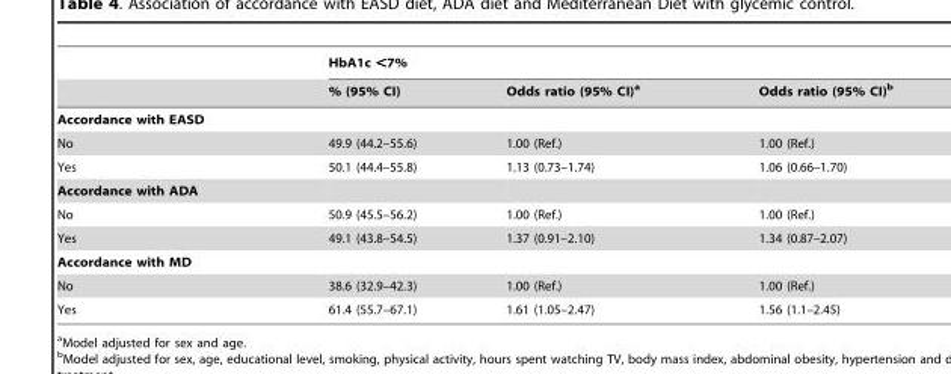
<table><thead><tr><td rowspan="2"></td><td colspan="3">HbA1c &lt;7%</td></tr><tr><td>% (95% CI)</td><td>Odds ratio (95% CI)<sup>a</sup></td><td>Odds ratio (95% CI)<sup>b</sup></td></tr></thead><tbody><tr><td colspan="4">Accordance with EASD</td></tr><tr><td>No</td><td>49.9 (44.2–55.6)</td><td>1.00 (Ref.)</td><td>1.00 (Ref.)</td></tr><tr><td>Yes</td><td>50.1 (44.4–55.8)</td><td>1.13 (0.73–1.74)</td><td>1.06 (0.66–1.70)</td></tr><tr><td colspan="4">Accordance with ADA</td></tr><tr><td>No</td><td>50.9 (45.5–56.2)</td><td>1.00 (Ref.)</td><td>1.00 (Ref.)</td></tr><tr><td>Yes</td><td>49.1 (43.8–54.5)</td><td>1.37 (0.91–2.10)</td><td>1.34 (0.87–2.07)</td></tr><tr><td colspan="4">Accordance with MD</td></tr><tr><td>No</td><td>38.6 (32.9–42.3)</td><td>1.00 (Ref.)</td><td>1.00 (Ref.)</td></tr><tr><td>Yes</td><td>61.4 (55.7–67.1)</td><td>1.61 (1.05–2.47)</td><td>1.56 (1.1–2.45)</td></tr></tbody></table>